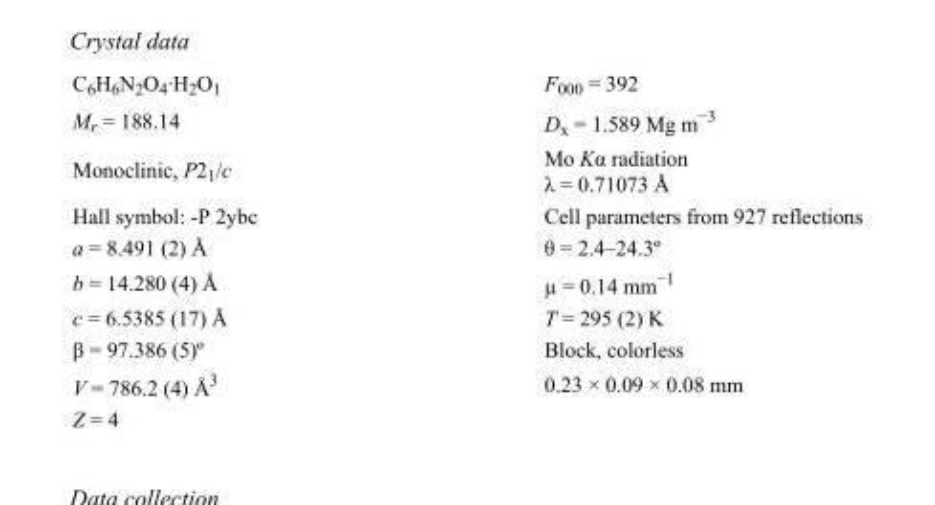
<table><tbody><tr><td>C6H6N2O4·H2O1</td><td>F000 = 392</td></tr><tr><td>M<sub>r</sub> = 188.14</td><td>D<sub>x</sub> = 1.589 Mg m<sup>−3</sup></td></tr><tr><td>Monoclinic, P2<sub>1</sub>/c</td><td>Mo Kα radiation λ = 0.71073 Å</td></tr><tr><td>Hall symbol: -P 2ybc</td><td>Cell parameters from 927 reflections</td></tr><tr><td>a = 8.491 (2) Å</td><td>θ = 2.4–24.3º</td></tr><tr><td>b = 14.280 (4) Å</td><td>µ = 0.14 mm<sup>−1</sup></td></tr><tr><td>c = 6.5385 (17) Å</td><td>T = 295 (2) K</td></tr><tr><td>β = 97.386 (5)º</td><td>Block, colorless</td></tr><tr><td>V = 786.2 (4) Å<sup>3</sup></td><td>0.23 × 0.09 × 0.08 mm</td></tr><tr><td>Z = 4</td><td></td></tr></tbody></table>